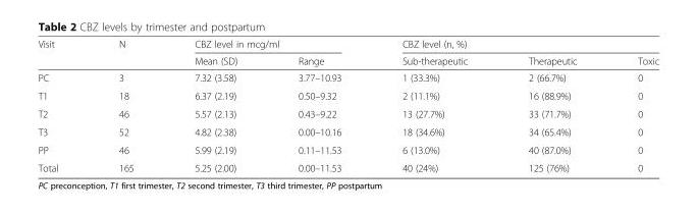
<table><thead><tr><td rowspan="2">Visit</td><td rowspan="2">N</td><td colspan="2">CBZ level in mcg/ml</td><td colspan="3">CBZ level (n, %)</td></tr><tr><td>Mean (SD)</td><td>Range</td><td>Sub-therapeutic</td><td>Therapeutic</td><td>Toxic</td></tr></thead><tbody><tr><td>PC</td><td>3</td><td>7.32 (3.58)</td><td>3.77–10.93</td><td>1 (33.3%)</td><td>2 (66.7%)</td><td>0</td></tr><tr><td>T1</td><td>18</td><td>6.37 (2.19)</td><td>0.50–9.32</td><td>2 (11.1%)</td><td>16 (88.9%)</td><td>0</td></tr><tr><td>T2</td><td>46</td><td>5.57 (2.13)</td><td>0.43–9.22</td><td>13 (27.7%)</td><td>33 (71.7%)</td><td>0</td></tr><tr><td>T3</td><td>52</td><td>4.82 (2.38)</td><td>0.00–10.16</td><td>18 (34.6%)</td><td>34 (65.4%)</td><td>0</td></tr><tr><td>PP</td><td>46</td><td>5.99 (2.19)</td><td>0.11–11.53</td><td>6 (13.0%)</td><td>40 (87.0%)</td><td>0</td></tr><tr><td>Total</td><td>165</td><td>5.25 (2.00)</td><td>0.00–11.53</td><td>40 (24%)</td><td>125 (76%)</td><td>0</td></tr></tbody></table>